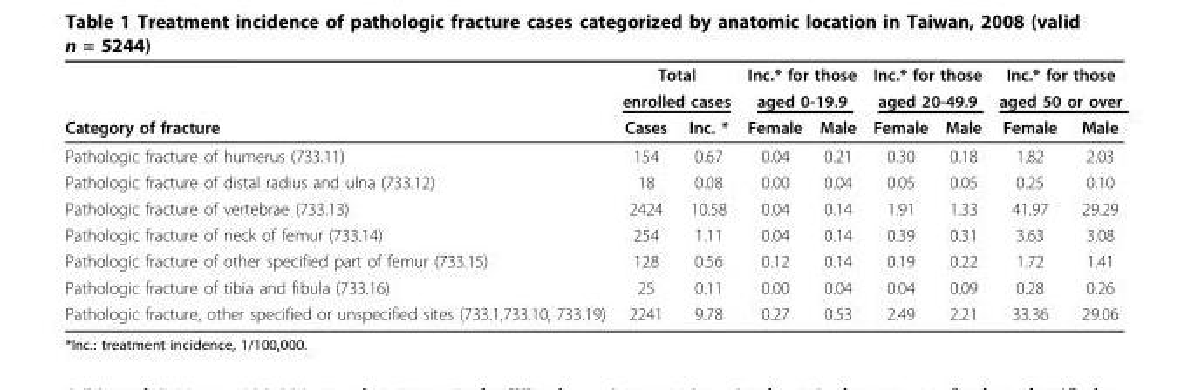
<table><thead><tr><td rowspan="3">Category of fracture</td><td rowspan="2" colspan="2">Total enrolled cases</td><td rowspan="2" colspan="2">Inc.* for those aged 0-19.9</td><td rowspan="2" colspan="2">Inc.* for those aged 20-49.9</td><td rowspan="2" colspan="2">Inc.* for those aged 50 or over</td></tr><tr></tr><tr><td>Cases</td><td>Inc. *</td><td>Female</td><td>Male</td><td>Female</td><td>Male</td><td>Female</td><td>Male</td></tr></thead><tbody><tr><td>Pathologic fracture of humerus (733.11)</td><td>154</td><td>0.67</td><td>0.04</td><td>0.21</td><td>0.30</td><td>0.18</td><td>1.82</td><td>2.03</td></tr><tr><td>Pathologic fracture of distal radius and ulna (733.12)</td><td>18</td><td>0.08</td><td>0.00</td><td>0.04</td><td>0.05</td><td>0.05</td><td>0.25</td><td>0.10</td></tr><tr><td>Pathologic fracture of vertebrae (733.13)</td><td>2424</td><td>10.58</td><td>0.04</td><td>0.14</td><td>1.91</td><td>1.33</td><td>41.97</td><td>29.29</td></tr><tr><td>Pathologic fracture of neck of femur (733.14)</td><td>254</td><td>1.11</td><td>0.04</td><td>0.14</td><td>0.39</td><td>0.31</td><td>3.63</td><td>3.08</td></tr><tr><td>Pathologic fracture of other specified part of femur (733.15)</td><td>128</td><td>0.56</td><td>0.12</td><td>0.14</td><td>0.19</td><td>0.22</td><td>1.72</td><td>1.41</td></tr><tr><td>Pathologic fracture of tibia and fibula (733.16)</td><td>25</td><td>0.11</td><td>0.00</td><td>0.04</td><td>0.04</td><td>0.09</td><td>0.28</td><td>0.26</td></tr><tr><td>Pathologic fracture, other specified or unspecified sites (733.1,733.10, 733.19)</td><td>2241</td><td>9.78</td><td>0.27</td><td>0.53</td><td>2.49</td><td>2.21</td><td>33.36</td><td>29.06</td></tr></tbody></table>